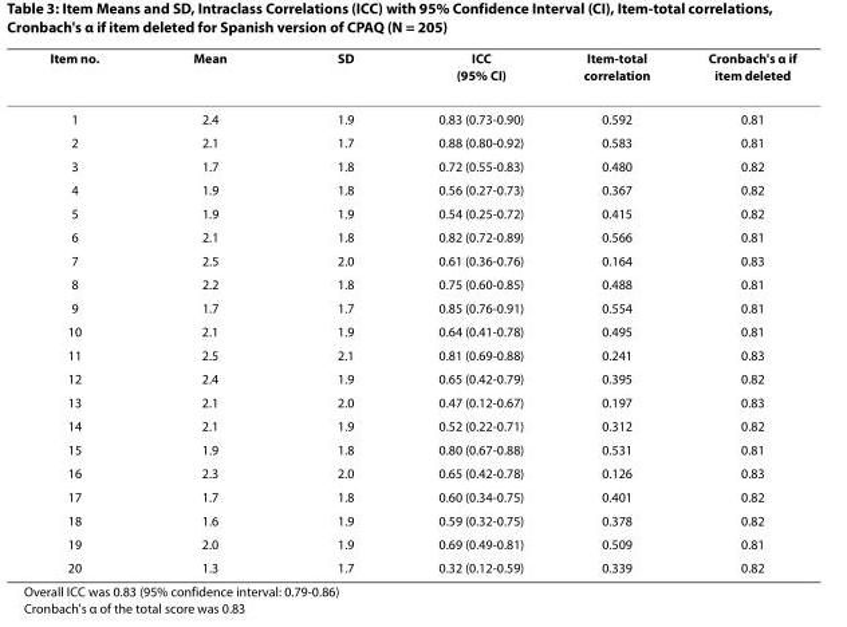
<table><thead><tr><td>Item no.</td><td>Mean</td><td>SD</td><td>ICC (95% CI)</td><td>Item-total correlation</td><td>Cronbach&#x27;s α if item deleted</td></tr></thead><tbody><tr><td>1</td><td>2.4</td><td>1.9</td><td>0.83 (0.73-0.90)</td><td>0.592</td><td>0.81</td></tr><tr><td>2</td><td>2.1</td><td>1.7</td><td>0.88 (0.80-0.92)</td><td>0.583</td><td>0.81</td></tr><tr><td>3</td><td>1.7</td><td>1.8</td><td>0.72 (0.55-0.83)</td><td>0.480</td><td>0.82</td></tr><tr><td>4</td><td>1.9</td><td>1.8</td><td>0.56 (0.27-0.73)</td><td>0.367</td><td>0.82</td></tr><tr><td>5</td><td>1.9</td><td>1.9</td><td>0.54 (0.25-0.72)</td><td>0.415</td><td>0.82</td></tr><tr><td>6</td><td>2.1</td><td>1.8</td><td>0.82 (0.72-0.89)</td><td>0.566</td><td>0.81</td></tr><tr><td>7</td><td>2.5</td><td>2.0</td><td>0.61 (0.36-0.76)</td><td>0.164</td><td>0.83</td></tr><tr><td>8</td><td>2.2</td><td>1.8</td><td>0.75 (0.60-0.85)</td><td>0.488</td><td>0.81</td></tr><tr><td>9</td><td>1.7</td><td>1.7</td><td>0.85 (0.76-0.91)</td><td>0.554</td><td>0.81</td></tr><tr><td>10</td><td>2.1</td><td>1.9</td><td>0.64 (0.41-0.78)</td><td>0.495</td><td>0.81</td></tr><tr><td>11</td><td>2.5</td><td>2.1</td><td>0.81 (0.69-0.88)</td><td>0.241</td><td>0.83</td></tr><tr><td>12</td><td>2.4</td><td>1.9</td><td>0.65 (0.42-0.79)</td><td>0.395</td><td>0.82</td></tr><tr><td>13</td><td>2.1</td><td>2.0</td><td>0.47 (0.12-0.67)</td><td>0.197</td><td>0.83</td></tr><tr><td>14</td><td>2.1</td><td>1.9</td><td>0.52 (0.22-0.71)</td><td>0.312</td><td>0.82</td></tr><tr><td>15</td><td>1.9</td><td>1.8</td><td>0.80 (0.67-0.88)</td><td>0.531</td><td>0.81</td></tr><tr><td>16</td><td>2.3</td><td>2.0</td><td>0.65 (0.42-0.78)</td><td>0.126</td><td>0.83</td></tr><tr><td>17</td><td>1.7</td><td>1.8</td><td>0.60 (0.34-0.75)</td><td>0.401</td><td>0.82</td></tr><tr><td>18</td><td>1.6</td><td>1.9</td><td>0.59 (0.32-0.75)</td><td>0.378</td><td>0.82</td></tr><tr><td>19</td><td>2.0</td><td>1.9</td><td>0.69 (0.49-0.81)</td><td>0.509</td><td>0.81</td></tr><tr><td>20</td><td>1.3</td><td>1.7</td><td>0.32 (0.12-0.59)</td><td>0.339</td><td>0.82</td></tr></tbody></table>